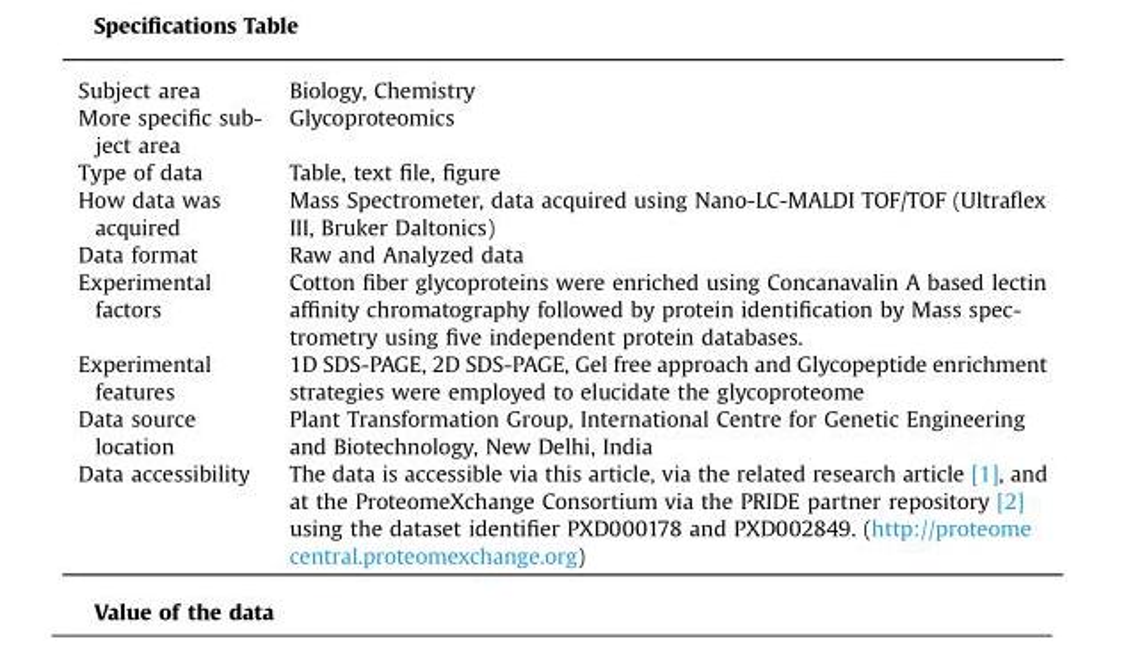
<table><tbody><tr><td>Subject area</td><td>Biology, Chemistry</td></tr><tr><td>More specific sub- ject area</td><td>Glycoproteomics</td></tr><tr><td>Type of data</td><td>Table, text file, figure</td></tr><tr><td>How data was acquired</td><td>Mass Spectrometer, data acquired using Nano-LC-MALDI TOF/TOF (Ultraflex III, Bruker Daltonics)</td></tr><tr><td>Data format</td><td>Raw and Analyzed data</td></tr><tr><td>Experimental factors</td><td>Cotton fiber glycoproteins were enriched using Concanavalin A based lectin affinity chromatography followed by protein identification by Mass spec- trometry using five independent protein databases.</td></tr><tr><td>Experimental features</td><td>1D SDS-PAGE, 2D SDS-PAGE, Gel free approach and Glycopeptide enrichment strategies were employed to elucidate the glycoproteome</td></tr><tr><td>Data source location</td><td>Plant Transformation Group, International Centre for Genetic Engineering and Biotechnology, New Delhi, India</td></tr><tr><td>Data accessibility</td><td>The data is accessible via this article, via the related research article [1], and at the ProteomeXchange Consortium via the PRIDE partner repository [2] using the dataset identifier PXD000178 and PXD002849. (http://proteome central.proteomexchange.org)</td></tr></tbody></table>